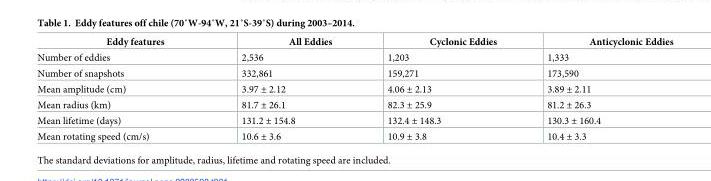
<table><thead><tr><td>Eddy features</td><td>All Eddies</td><td>Cyclonic Eddies</td><td>Anticyclonic Eddies</td></tr></thead><tbody><tr><td>Number of eddies</td><td>2,536</td><td>1,203</td><td>1,333</td></tr><tr><td>Number of snapshots</td><td>332,861</td><td>159,271</td><td>173,590</td></tr><tr><td>Mean amplitude (cm)</td><td>3.97 ± 2.12</td><td>4.06 ± 2.13</td><td>3.89 ± 2.11</td></tr><tr><td>Mean radius (km)</td><td>81.7 ± 26.1</td><td>82.3 ± 25.9</td><td>81.2 ± 26.3</td></tr><tr><td>Mean lifetime (days)</td><td>131.2 ± 154.8</td><td>132.4 ± 148.3</td><td>130.3 ± 160.4</td></tr><tr><td>Mean rotating speed (cm/s)</td><td>10.6 ± 3.6</td><td>10.9 ± 3.8</td><td>10.4 ± 3.3</td></tr></tbody></table>